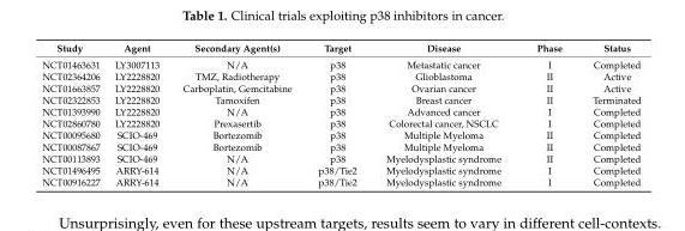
<table><thead><tr><td>Study</td><td>Agent</td><td>Secondary Agent(s)</td><td>Target</td><td>Disease</td><td>Phase</td><td>Status</td></tr></thead><tbody><tr><td>NCT01463631</td><td>LY3007113</td><td>N/A</td><td>p38</td><td>Metastatic cancer</td><td>I</td><td>Completed</td></tr><tr><td>NCT02364206</td><td>LY2228820</td><td>TMZ, Radiotherapy</td><td>p38</td><td>Glioblastoma</td><td>II</td><td>Active</td></tr><tr><td>NCT01663857</td><td>LY2228820</td><td>Carboplatin, Gemcitabine</td><td>p38</td><td>Ovarian cancer</td><td>II</td><td>Active</td></tr><tr><td>NCT02322853</td><td>LY2228820</td><td>Tamoxifen</td><td>p38</td><td>Breast cancer</td><td>II</td><td>Terminated</td></tr><tr><td>NCT01393990</td><td>LY2228820</td><td>N/A</td><td>p38</td><td>Advanced cancer</td><td>I</td><td>Completed</td></tr><tr><td>NCT02860780</td><td>LY2228820</td><td>Prexasertib</td><td>p38</td><td>Colorectal cancer, NSCLC</td><td>I</td><td>Completed</td></tr><tr><td>NCT00095680</td><td>SCIO-469</td><td>Bortezomib</td><td>p38</td><td>Multiple Myeloma</td><td>II</td><td>Completed</td></tr><tr><td>NCT00087867</td><td>SCIO-469</td><td>Bortezomib</td><td>p38</td><td>Multiple Myeloma</td><td>II</td><td>Completed</td></tr><tr><td>NCT00113893</td><td>SCIO-469</td><td>N/A</td><td>p38</td><td>Myelodysplastic syndrome</td><td>II</td><td>Completed</td></tr><tr><td>NCT01496495</td><td>ARRY-614</td><td>N/A</td><td>p38/Tie2</td><td>Myelodysplastic syndrome</td><td>I</td><td>Completed</td></tr><tr><td>NCT00916227</td><td>ARRY-614</td><td>N/A</td><td>p38/Tie2</td><td>Myelodysplastic syndrome</td><td>I</td><td>Completed</td></tr></tbody></table>